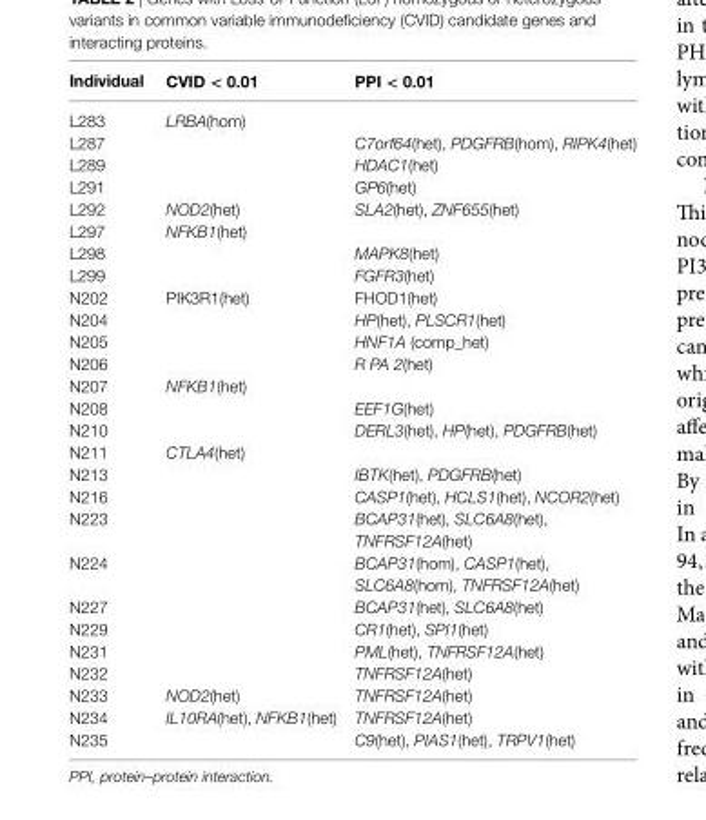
<table><thead><tr><td>individual</td><td>cViD &lt; 0.01</td><td>PPi &lt; 0.01</td></tr></thead><tbody><tr><td>L283</td><td>LRBA(hom)</td><td></td></tr><tr><td>L287</td><td></td><td>C7orf64(het), PDGFRB(hom), RIPK4(het)</td></tr><tr><td>L289</td><td></td><td>HDAC1(het)</td></tr><tr><td>L291</td><td></td><td>GP6(het)</td></tr><tr><td>L292</td><td>NOD2(het)</td><td>SLA2(het), ZNF655(het)</td></tr><tr><td>L297</td><td>NFKB1(het)</td><td></td></tr><tr><td>L298</td><td></td><td>MAPK8(het)</td></tr><tr><td>L299</td><td></td><td>FGFR3(het)</td></tr><tr><td>N202</td><td>PIK3R1(het)</td><td>FHOD1(het)</td></tr><tr><td>N204</td><td></td><td>HP(het), PLSCR1(het)</td></tr><tr><td>N205</td><td></td><td>HNF1A (comp_het)</td></tr><tr><td>N206</td><td></td><td>R PA 2(het)</td></tr><tr><td>N207</td><td>NFKB1(het)</td><td></td></tr><tr><td>N208</td><td></td><td>EEF1G(het)</td></tr><tr><td>N210</td><td></td><td>DERL3(het), HP(het), PDGFRB(het)</td></tr><tr><td>N211</td><td>CTLA4(het)</td><td></td></tr><tr><td>N213</td><td></td><td>IBTK(het), PDGFRB(het)</td></tr><tr><td>N216</td><td></td><td>CASP1(het), HCLS1(het), NCOR2(het)</td></tr><tr><td>N223</td><td></td><td>BCAP31(het), SLC6A8(het), TNFRSF12A(het)</td></tr><tr><td>N224</td><td></td><td>BCAP31(hom), CASP1(het), SLC6A8(hom), TNFRSF12A(het)</td></tr><tr><td>N227</td><td></td><td>BCAP31(het), SLC6A8(het)</td></tr><tr><td>N229</td><td></td><td>CR1(het), SPI1(het)</td></tr><tr><td>N231</td><td></td><td>PML(het), TNFRSF12A(het)</td></tr><tr><td>N232</td><td></td><td>TNFRSF12A(het)</td></tr><tr><td>N233</td><td>NOD2(het)</td><td>TNFRSF12A(het)</td></tr><tr><td>N234</td><td>IL10RA(het), NFKB1(het)</td><td>TNFRSF12A(het)</td></tr><tr><td>N235</td><td></td><td>C9(het), PIAS1(het), TRPV1(het)</td></tr></tbody></table>